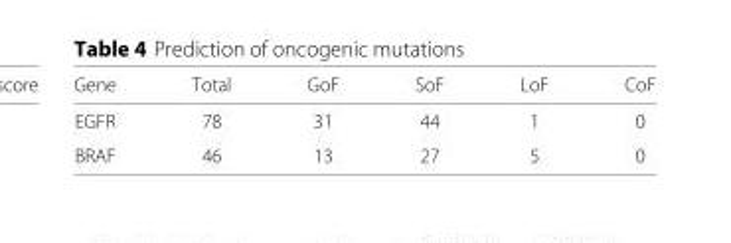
<table><thead><tr><td>Gene</td><td>Total</td><td>GoF</td><td>SoF</td><td>LoF</td><td>CoF</td></tr></thead><tbody><tr><td>EGFR</td><td>78</td><td>31</td><td>44</td><td>1</td><td>0</td></tr><tr><td>BRAF</td><td>46</td><td>13</td><td>27</td><td>5</td><td>0</td></tr></tbody></table>